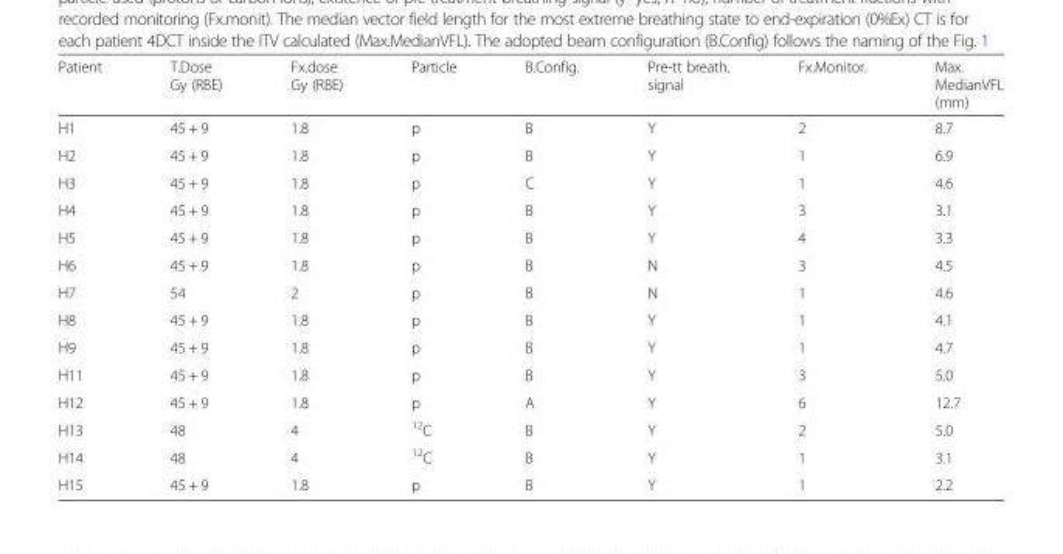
<table><thead><tr><td>Patient</td><td>T.Dose Gy (RBE)</td><td>Fx.dose Gy (RBE)</td><td>Particle</td><td>B.Config.</td><td>Pre-tt breath. signal</td><td>Fx.Monitor.</td><td>Max. MedianVFL (mm)</td></tr></thead><tbody><tr><td>H1</td><td>45 + 9</td><td>1.8</td><td>p</td><td>B</td><td>Y</td><td>2</td><td>8.7</td></tr><tr><td>H2</td><td>45 + 9</td><td>1.8</td><td>p</td><td>B</td><td>Y</td><td>1</td><td>6.9</td></tr><tr><td>H3</td><td>45 + 9</td><td>1.8</td><td>p</td><td>C</td><td>Y</td><td>1</td><td>4.6</td></tr><tr><td>H4</td><td>45 + 9</td><td>1.8</td><td>p</td><td>B</td><td>Y</td><td>3</td><td>3.1</td></tr><tr><td>H5</td><td>45 + 9</td><td>1.8</td><td>p</td><td>B</td><td>Y</td><td>4</td><td>3.3</td></tr><tr><td>H6</td><td>45 + 9</td><td>1.8</td><td>p</td><td>B</td><td>N</td><td>3</td><td>4.5</td></tr><tr><td>H7</td><td>54</td><td>2</td><td>p</td><td>B</td><td>N</td><td>1</td><td>4.6</td></tr><tr><td>H8</td><td>45 + 9</td><td>1.8</td><td>p</td><td>B</td><td>Y</td><td>1</td><td>4.1</td></tr><tr><td>H9</td><td>45 + 9</td><td>1.8</td><td>p</td><td>B</td><td>Y</td><td>1</td><td>4.7</td></tr><tr><td>H11</td><td>45 + 9</td><td>1.8</td><td>p</td><td>B</td><td>Y</td><td>3</td><td>5.0</td></tr><tr><td>H12</td><td>45 + 9</td><td>1.8</td><td>p</td><td>A</td><td>Y</td><td>6</td><td>12.7</td></tr><tr><td>H13</td><td>48</td><td>4</td><td><sup>12</sup>C</td><td>B</td><td>Y</td><td>2</td><td>5.0</td></tr><tr><td>H14</td><td>48</td><td>4</td><td><sup>12</sup>C</td><td>B</td><td>Y</td><td>1</td><td>3.1</td></tr><tr><td>H15</td><td>45 + 9</td><td>1.8</td><td>p</td><td>B</td><td>Y</td><td>1</td><td>2.2</td></tr></tbody></table>